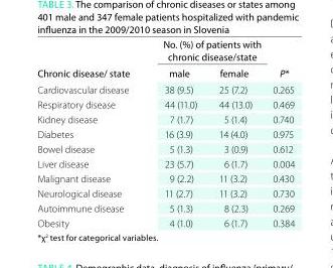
<table><thead><tr><td rowspan="2">Chronic disease/ state</td><td colspan="2">No. (%) of patients with chronic disease/state</td><td rowspan="2">P*</td></tr><tr><td>male</td><td>female</td></tr></thead><tbody><tr><td>Cardiovascular disease</td><td>38 (9.5)</td><td>25 (7.2)</td><td>0.265</td></tr><tr><td>Respiratory disease</td><td>44 (11.0)</td><td>44 (13.0)</td><td>0.469</td></tr><tr><td>Kidney disease</td><td>7 (1.7)</td><td>5 (1.4)</td><td>0.740</td></tr><tr><td>Diabetes</td><td>16 (3.9)</td><td>14 (4.0)</td><td>0.975</td></tr><tr><td>Bowel disease</td><td>5 (1.3)</td><td>3 (0.9)</td><td>0.612</td></tr><tr><td>Liver disease</td><td>23 (5.7)</td><td>6 (1.7)</td><td>0.004</td></tr><tr><td>Malignant disease</td><td>9 (2.2)</td><td>11 (3.2)</td><td>0.430</td></tr><tr><td>Neurological disease</td><td>11 (2.7)</td><td>11 (3.2)</td><td>0.730</td></tr><tr><td>Autoimmune disease</td><td>5 (1.3)</td><td>8 (2.3)</td><td>0.269</td></tr><tr><td>Obesity</td><td>4 (1.0)</td><td>6 (1.7)</td><td>0.384</td></tr></tbody></table>